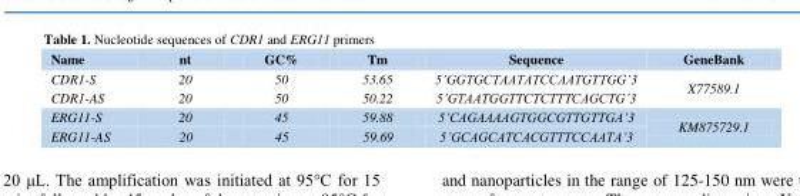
<table><thead><tr><td>Name</td><td>nt</td><td>GC%</td><td>Tm</td><td>Sequence</td><td>GeneBank</td></tr></thead><tbody><tr><td>CDR1-S</td><td>20</td><td>50</td><td>53.65</td><td>5’GGTGCTAATATCCAATGTTGG’3</td><td rowspan="2">X77589.1</td></tr><tr><td>CDR1-AS</td><td>20</td><td>50</td><td>50.22</td><td>5’GTAATGGTTCTCTTTCAGCTG’3</td></tr><tr><td>ERG11-S</td><td>20</td><td>45</td><td>59.88</td><td>5’CAGAAAAGTGGCGTTGTTGA’3</td><td rowspan="2">KM875729.1</td></tr><tr><td>ERG11-AS</td><td>20</td><td>45</td><td>59.69</td><td>5’GCAGCATCACGTTTCCAATA’3</td></tr></tbody></table>